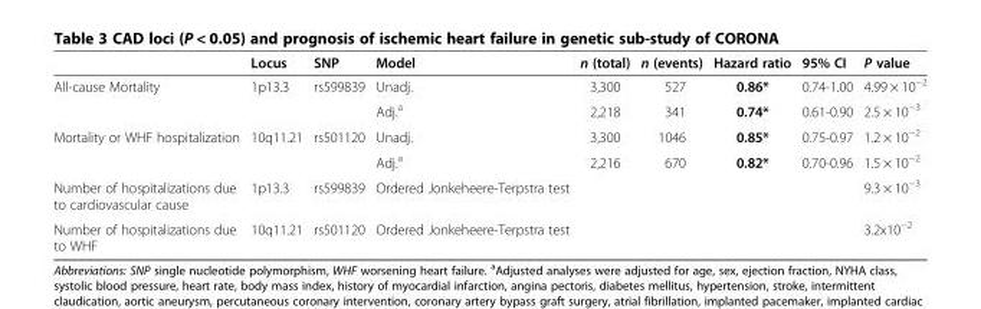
<table><thead><tr><td></td><td>Locus</td><td>SNP</td><td>Model</td><td>n (total)</td><td>n (events)</td><td>Hazard ratio</td><td>95% CI</td><td>P value</td></tr></thead><tbody><tr><td rowspan="2">All-cause Mortality</td><td>1p13.3</td><td>rs599839</td><td>Unadj.</td><td>3,300</td><td>527</td><td>0.86*</td><td>0.74-1.00</td><td>4.99 × 10<sup>−2</sup></td></tr><tr><td></td><td></td><td>Adj.<sup>a</sup></td><td>2,218</td><td>341</td><td>0.74*</td><td>0.61-0.90</td><td>2.5 × 10<sup>−3</sup></td></tr><tr><td rowspan="2">Mortality or WHF hospitalization</td><td>10q11.21</td><td>rs501120</td><td>Unadj.</td><td>3,300</td><td>1046</td><td>0.85*</td><td>0.75-0.97</td><td>1.2 × 10<sup>−2</sup></td></tr><tr><td></td><td></td><td>Adj.<sup>a</sup></td><td>2,216</td><td>670</td><td>0.82*</td><td>0.70-0.96</td><td>1.5 × 10<sup>−2</sup></td></tr><tr><td>Number of hospitalizations due to cardiovascular cause</td><td>1p13.3</td><td>rs599839</td><td>Ordered Jonkeheere-Terpstra test</td><td></td><td></td><td></td><td></td><td>9.3 × 10<sup>−3</sup></td></tr><tr><td>Number of hospitalizations due to WHF</td><td>10q11.21</td><td>rs501120</td><td>Ordered Jonkeheere-Terpstra test</td><td></td><td></td><td></td><td></td><td>3.2x10<sup>−2</sup></td></tr></tbody></table>